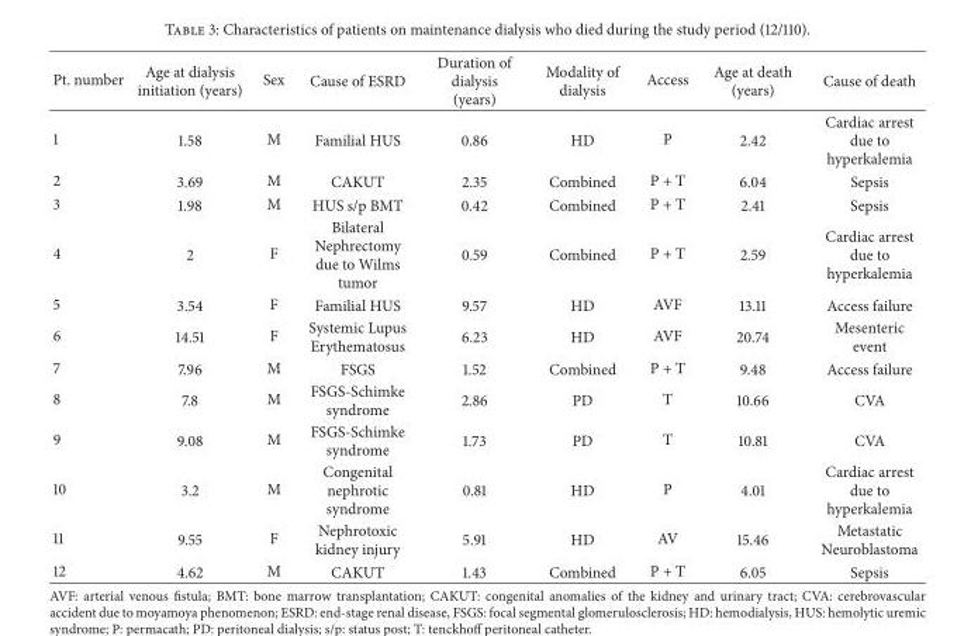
<table><thead><tr><td>Pt. number</td><td>Age at dialysis initiation (years)</td><td>Sex</td><td>Cause of ESRD</td><td>Duration of dialysis (years)</td><td>Modality of dialysis</td><td>Access</td><td>Age at death (years)</td><td>Cause of death</td></tr></thead><tbody><tr><td>1</td><td>1.58</td><td>M</td><td>Familial HUS</td><td>0.86</td><td>HD</td><td>P</td><td>2.42</td><td>Cardiac arrest due to hyperkalemia</td></tr><tr><td>2</td><td>3.69</td><td>M</td><td>CAKUT</td><td>2.35</td><td>Combined</td><td>P + T</td><td>6.04</td><td>Sepsis</td></tr><tr><td>3</td><td>1.98</td><td>M</td><td>HUS s/p BMT</td><td>0.42</td><td>Combined</td><td>P + T</td><td>2.41</td><td>Sepsis</td></tr><tr><td>4</td><td>2</td><td>F</td><td>Bilateral Nephrectomy due to Wilms tumor</td><td>0.59</td><td>Combined</td><td>P + T</td><td>2.59</td><td>Cardiac arrest due to hyperkalemia</td></tr><tr><td>5</td><td>3.54</td><td>F</td><td>Familial HUS</td><td>9.57</td><td>HD</td><td>AVF</td><td>13.11</td><td>Access failure</td></tr><tr><td>6</td><td>14.51</td><td>F</td><td>Systemic Lupus Erythematosus</td><td>6.23</td><td>HD</td><td>AVF</td><td>20.74</td><td>Mesenteric event</td></tr><tr><td>7</td><td>7.96</td><td>M</td><td>FSGS</td><td>1.52</td><td>Combined</td><td>P + T</td><td>9.48</td><td>Access failure</td></tr><tr><td>8</td><td>7.8</td><td>M</td><td>FSGS-Schimke syndrome</td><td>2.86</td><td>PD</td><td>T</td><td>10.66</td><td>CVA</td></tr><tr><td>9</td><td>9.08</td><td>M</td><td>FSGS-Schimke syndrome</td><td>1.73</td><td>PD</td><td>T</td><td>10.81</td><td>CVA</td></tr><tr><td>10</td><td>3.2</td><td>M</td><td>Congenital nephrotic syndrome</td><td>0.81</td><td>HD</td><td>P</td><td>4.01</td><td>Cardiac arrest due to hyperkalemia</td></tr><tr><td>11</td><td>9.55</td><td>F</td><td>Nephrotoxic kidney injury</td><td>5.91</td><td>HD</td><td>AV</td><td>15.46</td><td>Metastatic Neuroblastoma</td></tr><tr><td>12</td><td>4.62</td><td>M</td><td>CAKUT</td><td>1.43</td><td>Combined</td><td>P + T</td><td>6.05</td><td>Sepsis</td></tr></tbody></table>